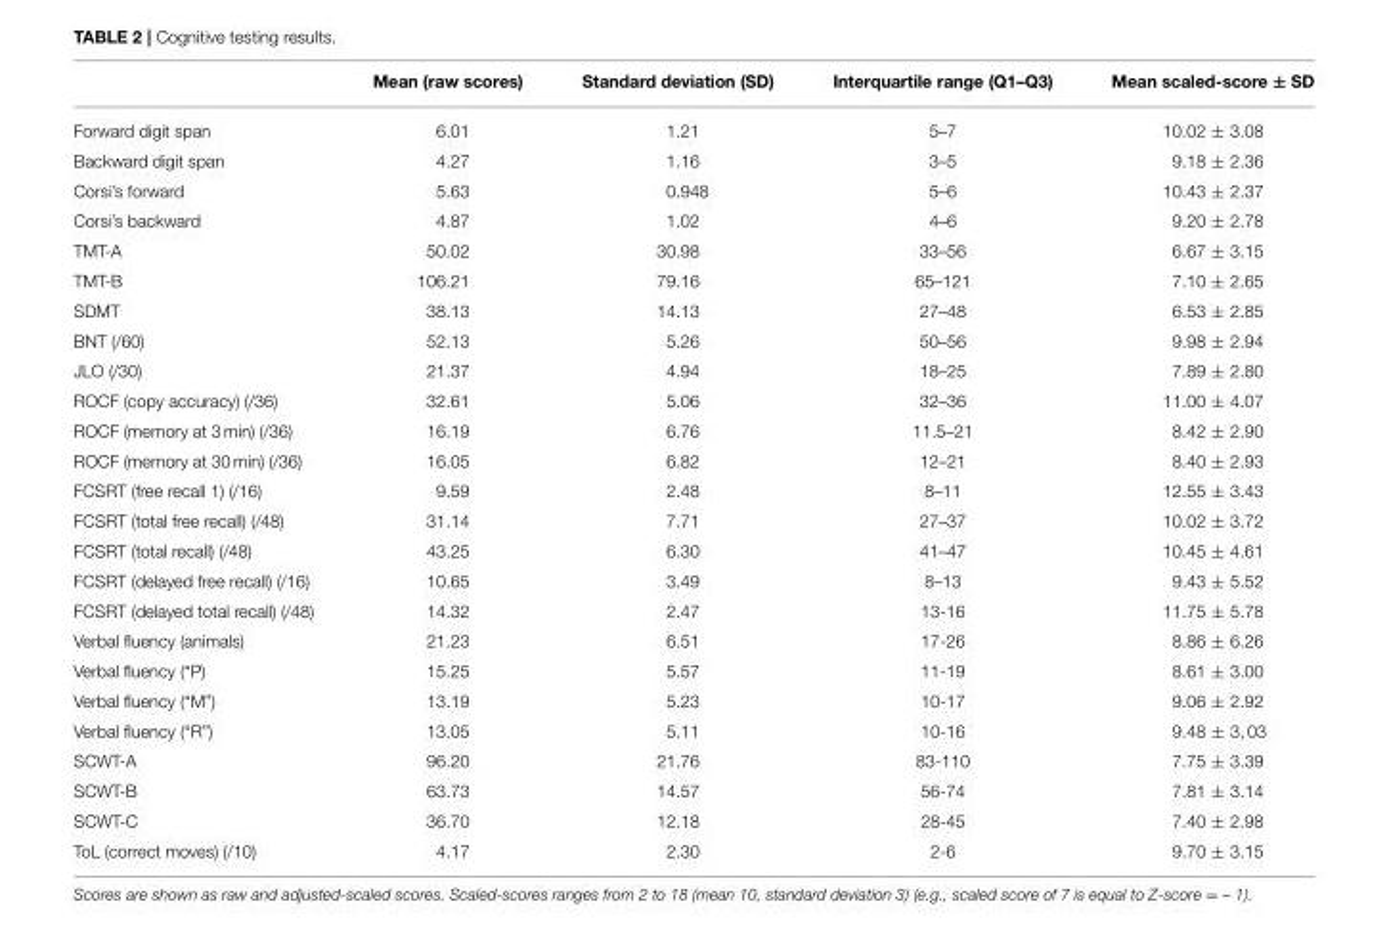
<table><thead><tr><td></td><td>Mean (raw scores)</td><td>Standard deviation (SD)</td><td>Interquartile range (Q1–Q3)</td><td>Mean scaled-score ± SD</td></tr></thead><tbody><tr><td>Forward digit span</td><td>6.01</td><td>1.21</td><td>5–7</td><td>10.02 ± 3.08</td></tr><tr><td>Backward digit span</td><td>4.27</td><td>1.16</td><td>3–5</td><td>9.18 ± 2.36</td></tr><tr><td>Corsi’s forward</td><td>5.63</td><td>0.948</td><td>5–6</td><td>10.43 ± 2.37</td></tr><tr><td>Corsi’s backward</td><td>4.87</td><td>1.02</td><td>4–6</td><td>9.20 ± 2.78</td></tr><tr><td>TMT-A</td><td>50.02</td><td>30.98</td><td>33–56</td><td>6.67 ± 3.15</td></tr><tr><td>TMT-B</td><td>106.21</td><td>79.16</td><td>65–121</td><td>7.10 ± 2.65</td></tr><tr><td>SDMT</td><td>38.13</td><td>14.13</td><td>27–48</td><td>6.53 ± 2.85</td></tr><tr><td>BNT (/60)</td><td>52.13</td><td>5.26</td><td>50–56</td><td>9.98 ± 2.94</td></tr><tr><td>JLO (/30)</td><td>21.37</td><td>4.94</td><td>18–25</td><td>7.89 ± 2.80</td></tr><tr><td>ROCF (copy accuracy) (/36)</td><td>32.61</td><td>5.06</td><td>32–36</td><td>11.00 ± 4.07</td></tr><tr><td>ROCF (memory at 3 min) (/36)</td><td>16.19</td><td>6.76</td><td>11.5–21</td><td>8.42 ± 2.90</td></tr><tr><td>ROCF (memory at 30 min) (/36)</td><td>16.05</td><td>6.82</td><td>12–21</td><td>8.40 ± 2.93</td></tr><tr><td>FCSRT (free recall 1) (/16)</td><td>9.59</td><td>2.48</td><td>8–11</td><td>12.55 ± 3.43</td></tr><tr><td>FCSRT (total free recall) (/48)</td><td>31.14</td><td>7.71</td><td>27–37</td><td>10.02 ± 3.72</td></tr><tr><td>FCSRT (total recall) (/48)</td><td>43.25</td><td>6.30</td><td>41–47</td><td>10.45 ± 4.61</td></tr><tr><td>FCSRT (delayed free recall) (/16)</td><td>10.65</td><td>3.49</td><td>8–13</td><td>9.43 ± 5.52</td></tr><tr><td>FCSRT (delayed total recall) (/48)</td><td>14.32</td><td>2.47</td><td>13-16</td><td>11.75 ± 5.78</td></tr><tr><td>Verbal fluency (animals)</td><td>21.23</td><td>6.51</td><td>17-26</td><td>8.86 ± 6.26</td></tr><tr><td>Verbal fluency (“P)</td><td>15.25</td><td>5.57</td><td>11-19</td><td>8.61 ± 3.00</td></tr><tr><td>Verbal fluency (“M”)</td><td>13.19</td><td>5.23</td><td>10-17</td><td>9.06 ± 2.92</td></tr><tr><td>Verbal fluency (“R”)</td><td>13.05</td><td>5.11</td><td>10-16</td><td>9.48 ± 3, 03</td></tr><tr><td>SCWT-A</td><td>96.20</td><td>21.76</td><td>83-110</td><td>7.75 ± 3.39</td></tr><tr><td>SCWT-B</td><td>63.73</td><td>14.57</td><td>56-74</td><td>7.81 ± 3.14</td></tr><tr><td>SCWT-C</td><td>36.70</td><td>12.18</td><td>28-45</td><td>7.40 ± 2.98</td></tr><tr><td>ToL (correct moves) (/10)</td><td>4.17</td><td>2.30</td><td>2-6</td><td>9.70 ± 3.15</td></tr></tbody></table>